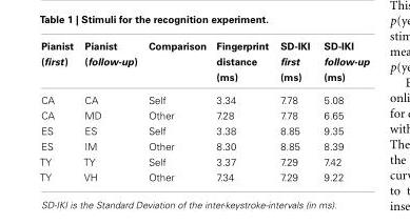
<table><thead><tr><td>Pianist (first)</td><td>Pianist (follow-up)</td><td>Comparison</td><td>Fingerprint distance (ms)</td><td>SD-IKI first (ms)</td><td>SD-IKI follow-up (ms)</td></tr></thead><tbody><tr><td>CA</td><td>CA</td><td>Self</td><td>3.34</td><td>7.78</td><td>5.08</td></tr><tr><td>CA</td><td>MD</td><td>Other</td><td>7.28</td><td>7.78</td><td>6.65</td></tr><tr><td>ES</td><td>ES</td><td>Self</td><td>3.38</td><td>8.85</td><td>9.35</td></tr><tr><td>ES</td><td>IM</td><td>Other</td><td>8.30</td><td>8.85</td><td>8.39</td></tr><tr><td>TY</td><td>TY</td><td>Self</td><td>3.37</td><td>7.29</td><td>7.42</td></tr><tr><td>TY</td><td>VH</td><td>Other</td><td>7.34</td><td>7.29</td><td>9.22</td></tr></tbody></table>